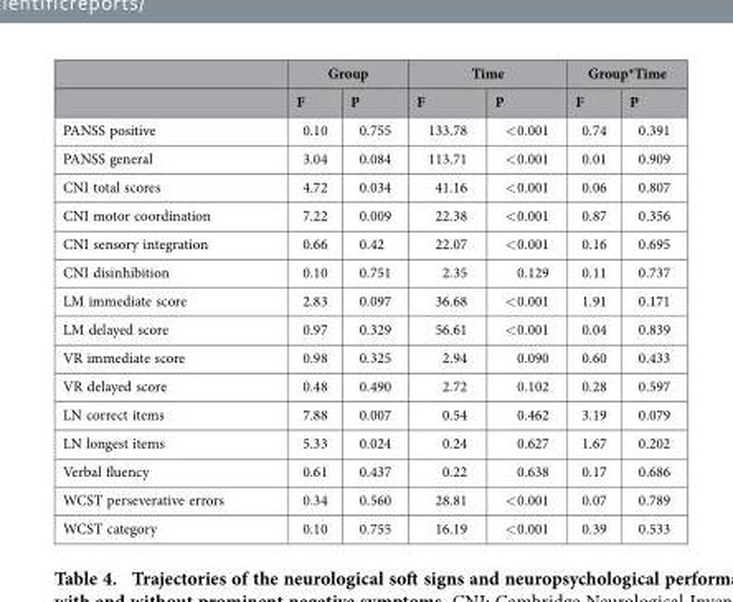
<table><thead><tr><td rowspan="2"></td><td colspan="2">Group</td><td colspan="2">Time</td><td colspan="2">Group*Time</td></tr><tr><td>F</td><td>P</td><td>F</td><td>P</td><td>F</td><td>P</td></tr></thead><tbody><tr><td>PANSS positive</td><td>0.10</td><td>0.755</td><td>133.78</td><td>&lt; 0.001</td><td>0.74</td><td>0.391</td></tr><tr><td>PANSS general</td><td>3.04</td><td>0.084</td><td>113.71</td><td>&lt; 0.001</td><td>0.01</td><td>0.909</td></tr><tr><td>CNI total scores</td><td>4.72</td><td>0.034</td><td>41.16</td><td>&lt; 0.001</td><td>0.06</td><td>0.807</td></tr><tr><td>CNI motor coordination</td><td>7.22</td><td>0.009</td><td>22.38</td><td>&lt; 0.001</td><td>0.87</td><td>0.356</td></tr><tr><td>CNI sensory integration</td><td>0.66</td><td>0.42</td><td>22.07</td><td>&lt; 0.001</td><td>0.16</td><td>0.695</td></tr><tr><td>CNI disinhibition</td><td>0.10</td><td>0.751</td><td>2.35</td><td>0.129</td><td>0.11</td><td>0.737</td></tr><tr><td>LM immediate score</td><td>2.83</td><td>0.097</td><td>36.68</td><td>&lt; 0.001</td><td>1.91</td><td>0.171</td></tr><tr><td>LM delayed score</td><td>0.97</td><td>0.329</td><td>56.61</td><td>&lt; 0.001</td><td>0.04</td><td>0.839</td></tr><tr><td>VR immediate score</td><td>0.98</td><td>0.325</td><td>2.94</td><td>0.090</td><td>0.60</td><td>0.433</td></tr><tr><td>VR delayed score</td><td>0.48</td><td>0.490</td><td>2.72</td><td>0.102</td><td>0.28</td><td>0.597</td></tr><tr><td>LN correct items</td><td>7.88</td><td>0.007</td><td>0.54</td><td>0.462</td><td>3.19</td><td>0.079</td></tr><tr><td>LN longest items</td><td>5.33</td><td>0.024</td><td>0.24</td><td>0.627</td><td>1.67</td><td>0.202</td></tr><tr><td>Verbal fluency</td><td>0.61</td><td>0.437</td><td>0.22</td><td>0.638</td><td>0.17</td><td>0.686</td></tr><tr><td>WCST perseverative errors</td><td>0.34</td><td>0.560</td><td>28.81</td><td>&lt; 0.001</td><td>0.07</td><td>0.789</td></tr><tr><td>WCST category</td><td>0.10</td><td>0.755</td><td>16.19</td><td>&lt; 0.001</td><td>0.39</td><td>0.533</td></tr></tbody></table>